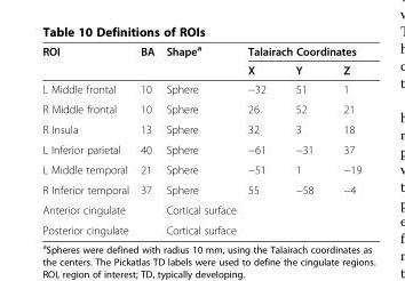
<table><thead><tr><td rowspan="2">ROI</td><td rowspan="2">BA</td><td rowspan="2">Shape<sup>a</sup></td><td colspan="3">Talairach Coordinates</td></tr><tr><td>X</td><td>Y</td><td>Z</td></tr></thead><tbody><tr><td>L Middle frontal</td><td>10</td><td>Sphere</td><td>−32</td><td>51</td><td>1</td></tr><tr><td>R Middle frontal</td><td>10</td><td>Sphere</td><td>26</td><td>52</td><td>21</td></tr><tr><td>R Insula</td><td>13</td><td>Sphere</td><td>32</td><td>3</td><td>18</td></tr><tr><td>L Inferior parietal</td><td>40</td><td>Sphere</td><td>−61</td><td>−31</td><td>37</td></tr><tr><td>L Middle temporal</td><td>21</td><td>Sphere</td><td>−51</td><td>1</td><td>−19</td></tr><tr><td>R Inferior temporal</td><td>37</td><td>Sphere</td><td>55</td><td>−58</td><td>−4</td></tr><tr><td>Anterior cingulate</td><td></td><td>Cortical surface</td><td></td><td></td><td></td></tr><tr><td>Posterior cingulate</td><td></td><td>Cortical surface</td><td></td><td></td><td></td></tr></tbody></table>